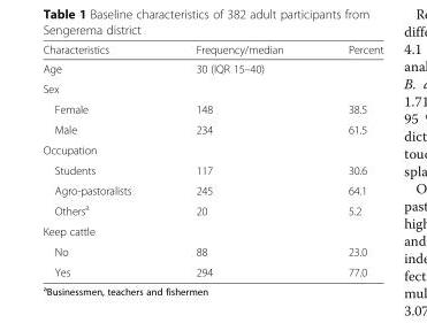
<table><thead><tr><td>Characteristics</td><td>Frequency/median</td><td>Percent</td></tr></thead><tbody><tr><td>Age</td><td>30 (IQR 15–40)</td><td></td></tr><tr><td colspan="3">Sex</td></tr><tr><td>Female</td><td>148</td><td>38.5</td></tr><tr><td>Male</td><td>234</td><td>61.5</td></tr><tr><td colspan="3">Occupation</td></tr><tr><td>Students</td><td>117</td><td>30.6</td></tr><tr><td>Agro-pastoralists</td><td>245</td><td>64.1</td></tr><tr><td>Others<sup>a</sup></td><td>20</td><td>5.2</td></tr><tr><td colspan="3">Keep cattle</td></tr><tr><td>No</td><td>88</td><td>23.0</td></tr><tr><td>Yes</td><td>294</td><td>77.0</td></tr></tbody></table>